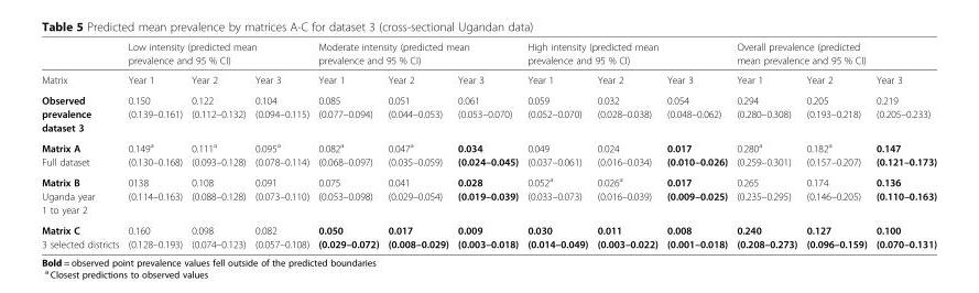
<table><thead><tr><td rowspan="2">Matrix</td><td colspan="3">Low intensity (predicted mean prevalence and 95 % CI)</td><td colspan="3">Moderate intensity (predicted mean prevalence and 95 % CI)</td><td colspan="3">High intensity (predicted mean prevalence and 95 % CI)</td><td colspan="3">Overall prevalence (predicted mean prevalence and 95 % CI)</td></tr><tr><td>Year 1</td><td>Year 2</td><td>Year 3</td><td>Year 1</td><td>Year 2</td><td>Year 3</td><td>Year 1</td><td>Year 2</td><td>Year 3</td><td>Year 1</td><td>Year 2</td><td>Year 3</td></tr></thead><tbody><tr><td>Observed prevalence dataset 3</td><td>0.150 (0.139–0.161)</td><td>0.122 (0.112–0.132)</td><td>0.104 (0.094–0.115)</td><td>0.085 (0.077–0.094)</td><td>0.051 (0.044–0.053)</td><td>0.061 (0.053–0.070)</td><td>0.059 (0.052–0.070)</td><td>0.032 (0.028–0.038)</td><td>0.054 (0.048–0.062)</td><td>0.294 (0.280–0.308)</td><td>0.205 (0.193–0.218)</td><td>0.219 (0.205–0.233)</td></tr><tr><td>Matrix A Full dataset</td><td>0.149<sup>a</sup> (0.130–0.168)</td><td>0.111<sup>a</sup> (0.093–0.128)</td><td>0.095<sup>a</sup> (0.078–0.114)</td><td>0.082<sup>a</sup> (0.068–0.097)</td><td>0.047<sup>a</sup> (0.035–0.059)</td><td>0.034 (0.024–0.045)</td><td>0.049 (0.037–0.061)</td><td>0.024 (0.016–0.034)</td><td>0.017 (0.010–0.026)</td><td>0.280<sup>a</sup> (0.259–0.301)</td><td>0.182<sup>a</sup> (0.157–0.207)</td><td>0.147 (0.121–0.173)</td></tr><tr><td>Matrix B Uganda year 1 to year 2</td><td>0138 (0.114–0.163)</td><td>0.108 (0.088–0.128)</td><td>0.091 (0.073–0.110)</td><td>0.075 (0.053–0.098)</td><td>0.041 (0.029–0.054)</td><td>0.028 (0.019–0.039)</td><td>0.052<sup>a</sup> (0.033–0.073)</td><td>0.026<sup>a</sup> (0.016–0.039)</td><td>0.017 (0.009–0.025)</td><td>0.265 (0.235–0.295)</td><td>0.174 (0.146–0.205)</td><td>0.136 (0.110–0.163)</td></tr><tr><td>Matrix C 3 selected districts</td><td>0.160 (0.128–0.193)</td><td>0.098 (0.074–0.123)</td><td>0.082 (0.057–0.108)</td><td>0.050 (0.029–0.072)</td><td>0.017 (0.008–0.029)</td><td>0.009 (0.003–0.018)</td><td>0.030 (0.014–0.049)</td><td>0.011 (0.003–0.022)</td><td>0.008 (0.001–0.018)</td><td>0.240 (0.208–0.273)</td><td>0.127 (0.096–0.159)</td><td>0.100 (0.070–0.131)</td></tr></tbody></table>